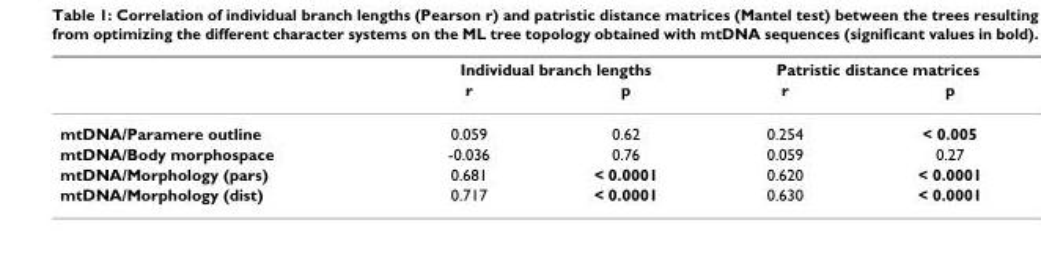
<table><thead><tr><td rowspan="2"></td><td colspan="2">Individual branch lengths</td><td colspan="2">Patristic distance matrices</td></tr><tr><td>r</td><td>p</td><td>r</td><td>p</td></tr></thead><tbody><tr><td>mtDNA/Paramere outline</td><td>0.059</td><td>0.62</td><td>0.254</td><td>&lt; 0.005</td></tr><tr><td>mtDNA/Body morphospace</td><td>-0.036</td><td>0.76</td><td>0.059</td><td>0.27</td></tr><tr><td>mtDNA/Morphology (pars)</td><td>0.681</td><td>&lt; 0.0001</td><td>0.620</td><td>&lt; 0.0001</td></tr><tr><td>mtDNA/Morphology (dist)</td><td>0.717</td><td>&lt; 0.0001</td><td>0.630</td><td>&lt; 0.0001</td></tr></tbody></table>